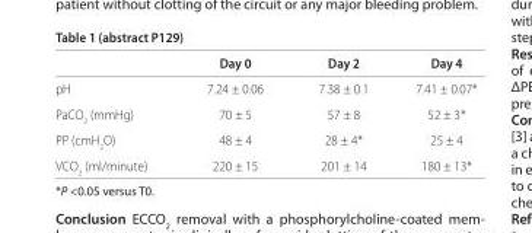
<table><thead><tr><td></td><td>Day 0</td><td>Day 2</td><td>Day 4</td></tr></thead><tbody><tr><td>pH</td><td>7.24 ± 0.06</td><td>7.38 ± 0.1</td><td>7.41 ± 0.07*</td></tr><tr><td>PaCO<sub>2</sub> (mmHg)</td><td>70 ± 5</td><td>57 ± 8</td><td>52 ± 3*</td></tr><tr><td>PP (cmH<sub>2</sub>O)</td><td>48 ± 4</td><td>28 ± 4*</td><td>25 ± 4</td></tr><tr><td>VCO<sub>2</sub> (ml/minute)</td><td>220 ± 15</td><td>201 ± 14</td><td>180 ± 13*</td></tr></tbody></table>